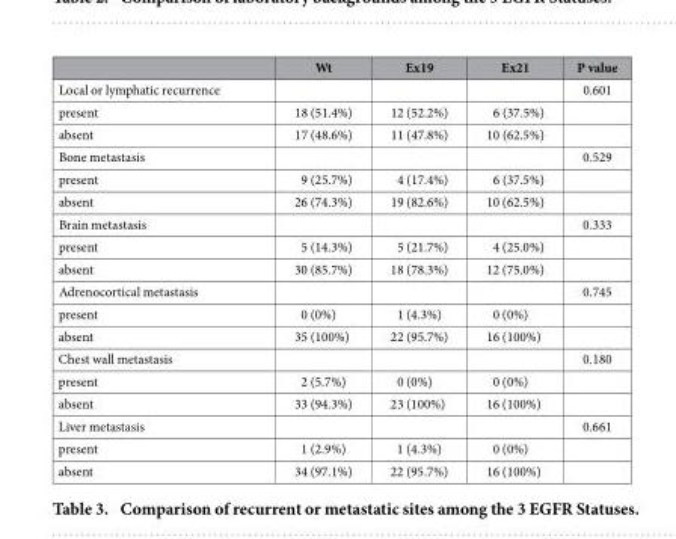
<table><thead><tr><td></td><td>Wt</td><td>Ex19</td><td>Ex21</td><td>P value</td></tr></thead><tbody><tr><td>Local or lymphatic recurrence</td><td></td><td></td><td></td><td>0.601</td></tr><tr><td>present</td><td>18 (51.4%)</td><td>12 (52.2%)</td><td>6 (37.5%)</td><td></td></tr><tr><td>absent</td><td>17 (48.6%)</td><td>11 (47.8%)</td><td>10 (62.5%)</td><td></td></tr><tr><td>Bone metastasis</td><td></td><td></td><td></td><td>0.529</td></tr><tr><td>present</td><td>9 (25.7%)</td><td>4 (17.4%)</td><td>6 (37.5%)</td><td></td></tr><tr><td>absent</td><td>26 (74.3%)</td><td>19 (82.6%)</td><td>10 (62.5%)</td><td></td></tr><tr><td>Brain metastasis</td><td></td><td></td><td></td><td>0.333</td></tr><tr><td>present</td><td>5 (14.3%)</td><td>5 (21.7%)</td><td>4 (25.0%)</td><td></td></tr><tr><td>absent</td><td>30 (85.7%)</td><td>18 (78.3%)</td><td>12 (75.0%)</td><td></td></tr><tr><td>Adrenocortical metastasis</td><td></td><td></td><td></td><td>0.745</td></tr><tr><td>present</td><td>0 (0%)</td><td>1 (4.3%)</td><td>0 (0%)</td><td></td></tr><tr><td>absent</td><td>35 (100%)</td><td>22 (95.7%)</td><td>16 (100%)</td><td></td></tr><tr><td>Chest wall metastasis</td><td></td><td></td><td></td><td>0.180</td></tr><tr><td>present</td><td>2 (5.7%)</td><td>0 (0%)</td><td>0 (0%)</td><td></td></tr><tr><td>absent</td><td>33 (94.3%)</td><td>23 (100%)</td><td>16 (100%)</td><td></td></tr><tr><td>Liver metastasis</td><td></td><td></td><td></td><td>0.661</td></tr><tr><td>present</td><td>1 (2.9%)</td><td>1 (4.3%)</td><td>0 (0%)</td><td></td></tr><tr><td>absent</td><td>34 (97.1%)</td><td>22 (95.7%)</td><td>16 (100%)</td><td></td></tr></tbody></table>